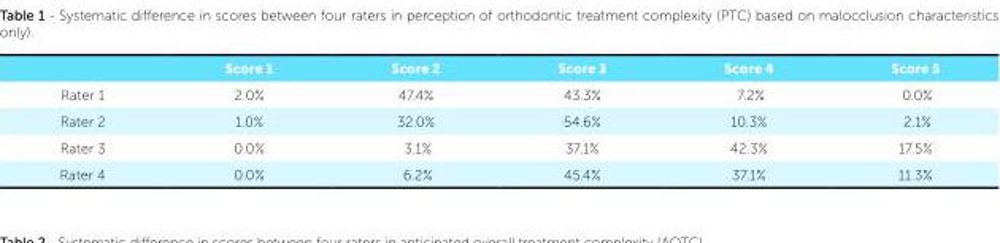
<table><thead><tr><td></td><td>Score 1</td><td>Score 2</td><td>Score 3</td><td>Score 4</td><td>Score 5</td></tr></thead><tbody><tr><td>Rater 1</td><td>2.0%</td><td>47.4%</td><td>43.3%</td><td>7.2%</td><td>0.0%</td></tr><tr><td>Rater 2</td><td>1.0%</td><td>32.0%</td><td>54.6%</td><td>10.3%</td><td>2.1%</td></tr><tr><td>Rater 3</td><td>0.0%</td><td>3.1%</td><td>37.1%</td><td>42.3%</td><td>17.5%</td></tr><tr><td>Rater 4</td><td>0.0%</td><td>6.2%</td><td>45.4%</td><td>37.1%</td><td>11.3%</td></tr></tbody></table>